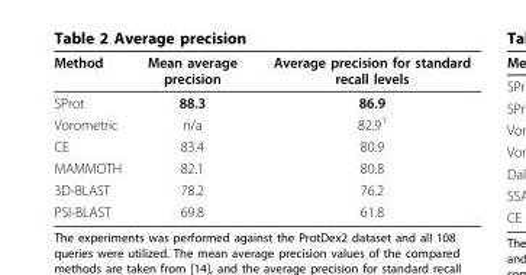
<table><thead><tr><td>Method</td><td>Mean average precision</td><td>Average precision for standard recall levels</td></tr></thead><tbody><tr><td>SProt</td><td>88.3</td><td>86.9</td></tr><tr><td>Vorometric</td><td>n/a</td><td>82.9<sup>1</sup></td></tr><tr><td>CE</td><td>83.4</td><td>80.9</td></tr><tr><td>MAMMOTH</td><td>82.1</td><td>80.8</td></tr><tr><td>3D-BLAST</td><td>78.2</td><td>76.2</td></tr><tr><td>PSI-BLAST</td><td>69.8</td><td>61.8</td></tr></tbody></table>